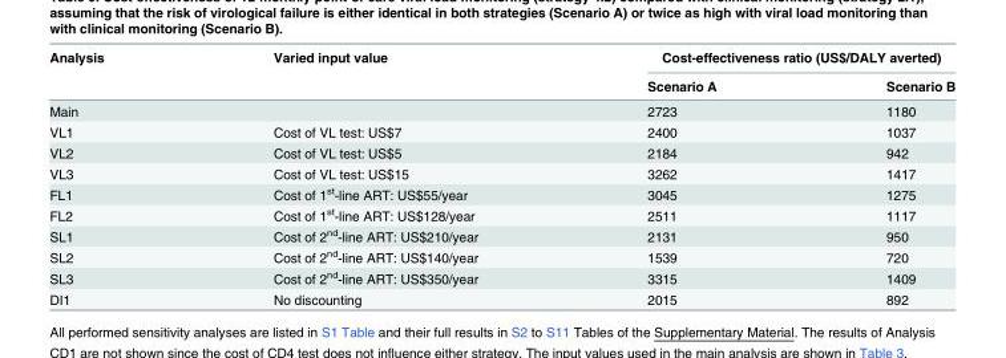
<table><thead><tr><td rowspan="2">Analysis</td><td rowspan="2">Varied input value</td><td colspan="2">Cost-effectiveness ratio (US$/DALY averted)</td></tr><tr><td>Scenario A</td><td>Scenario B</td></tr></thead><tbody><tr><td>Main</td><td></td><td>2723</td><td>1180</td></tr><tr><td>VL1</td><td>Cost of VL test: US$7</td><td>2400</td><td>1037</td></tr><tr><td>VL2</td><td>Cost of VL test: US$5</td><td>2184</td><td>942</td></tr><tr><td>VL3</td><td>Cost of VL test: US$15</td><td>3262</td><td>1417</td></tr><tr><td>FL1</td><td>Cost of 1<sup>st</sup>-line ART: US$55/year</td><td>3045</td><td>1275</td></tr><tr><td>FL2</td><td>Cost of 1<sup>st</sup>-line ART: US$128/year</td><td>2511</td><td>1117</td></tr><tr><td>SL1</td><td>Cost of 2<sup>nd</sup>-line ART: US$210/year</td><td>2131</td><td>950</td></tr><tr><td>SL2</td><td>Cost of 2<sup>nd</sup>-line ART: US$140/year</td><td>1539</td><td>720</td></tr><tr><td>SL3</td><td>Cost of 2<sup>nd</sup>-line ART: US$350/year</td><td>3315</td><td>1409</td></tr><tr><td>DI1</td><td>No discounting</td><td>2015</td><td>892</td></tr></tbody></table>